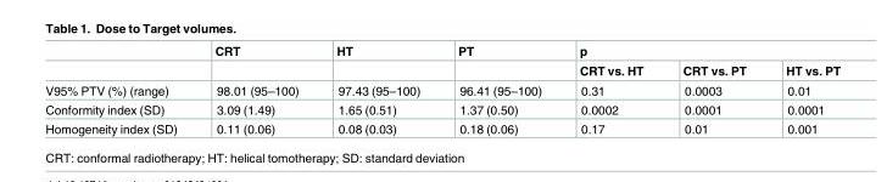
<table><thead><tr><td rowspan="2"></td><td rowspan="2">CRT</td><td rowspan="2">HT</td><td rowspan="2">PT</td><td colspan="3">p</td></tr><tr><td>CRT vs. HT</td><td>CRT vs. PT</td><td>HT vs. PT</td></tr></thead><tbody><tr><td>V95% PTV (%) (range)</td><td>98.01 (95–100)</td><td>97.43 (95–100)</td><td>96.41 (95–100)</td><td>0.31</td><td>0.0003</td><td>0.01</td></tr><tr><td>Conformity index (SD)</td><td>3.09 (1.49)</td><td>1.65 (0.51)</td><td>1.37 (0.50)</td><td>0.0002</td><td>0.0001</td><td>0.0001</td></tr><tr><td>Homogeneity index (SD)</td><td>0.11 (0.06)</td><td>0.08 (0.03)</td><td>0.18 (0.06)</td><td>0.17</td><td>0.01</td><td>0.001</td></tr></tbody></table>